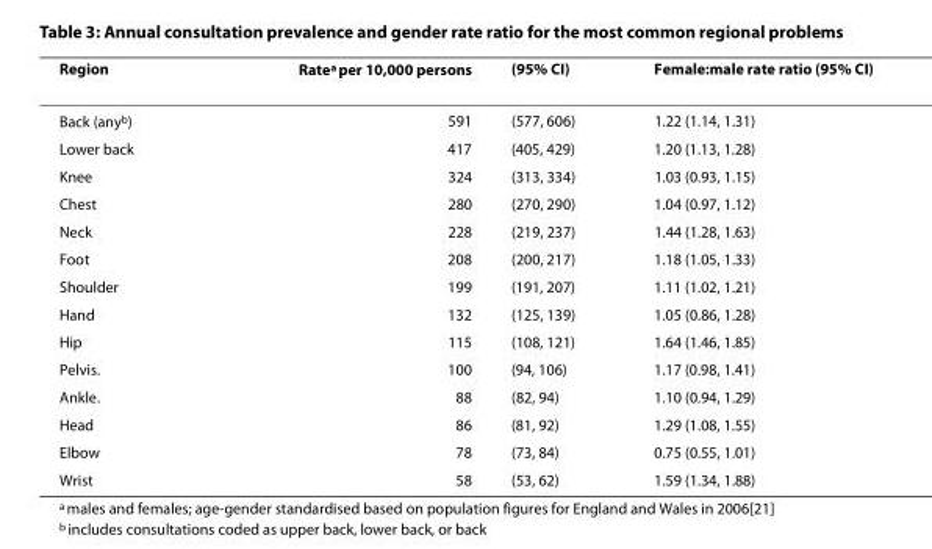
<table><thead><tr><td>Region</td><td>Rate<sup>a</sup> per 10,000 persons</td><td>(95% CI)</td><td>Female:male rate ratio (95% CI)</td></tr></thead><tbody><tr><td>Back (any<sup>b</sup>)</td><td>591</td><td>(577, 606)</td><td>1.22 (1.14, 1.31)</td></tr><tr><td>Lower back</td><td>417</td><td>(405, 429)</td><td>1.20 (1.13, 1.28)</td></tr><tr><td>Knee</td><td>324</td><td>(313, 334)</td><td>1.03 (0.93, 1.15)</td></tr><tr><td>Chest</td><td>280</td><td>(270, 290)</td><td>1.04 (0.97, 1.12)</td></tr><tr><td>Neck</td><td>228</td><td>(219, 237)</td><td>1.44 (1.28, 1.63)</td></tr><tr><td>Foot</td><td>208</td><td>(200, 217)</td><td>1.18 (1.05, 1.33)</td></tr><tr><td>Shoulder</td><td>199</td><td>(191, 207)</td><td>1.11 (1.02, 1.21)</td></tr><tr><td>Hand</td><td>132</td><td>(125, 139)</td><td>1.05 (0.86, 1.28)</td></tr><tr><td>Hip</td><td>115</td><td>(108, 121)</td><td>1.64 (1.46, 1.85)</td></tr><tr><td>Pelvis.</td><td>100</td><td>(94, 106)</td><td>1.17 (0.98, 1.41)</td></tr><tr><td>Ankle.</td><td>88</td><td>(82, 94)</td><td>1.10 (0.94, 1.29)</td></tr><tr><td>Head</td><td>86</td><td>(81, 92)</td><td>1.29 (1.08, 1.55)</td></tr><tr><td>Elbow</td><td>78</td><td>(73, 84)</td><td>0.75 (0.55, 1.01)</td></tr><tr><td>Wrist</td><td>58</td><td>(53, 62)</td><td>1.59 (1.34, 1.88)</td></tr></tbody></table>